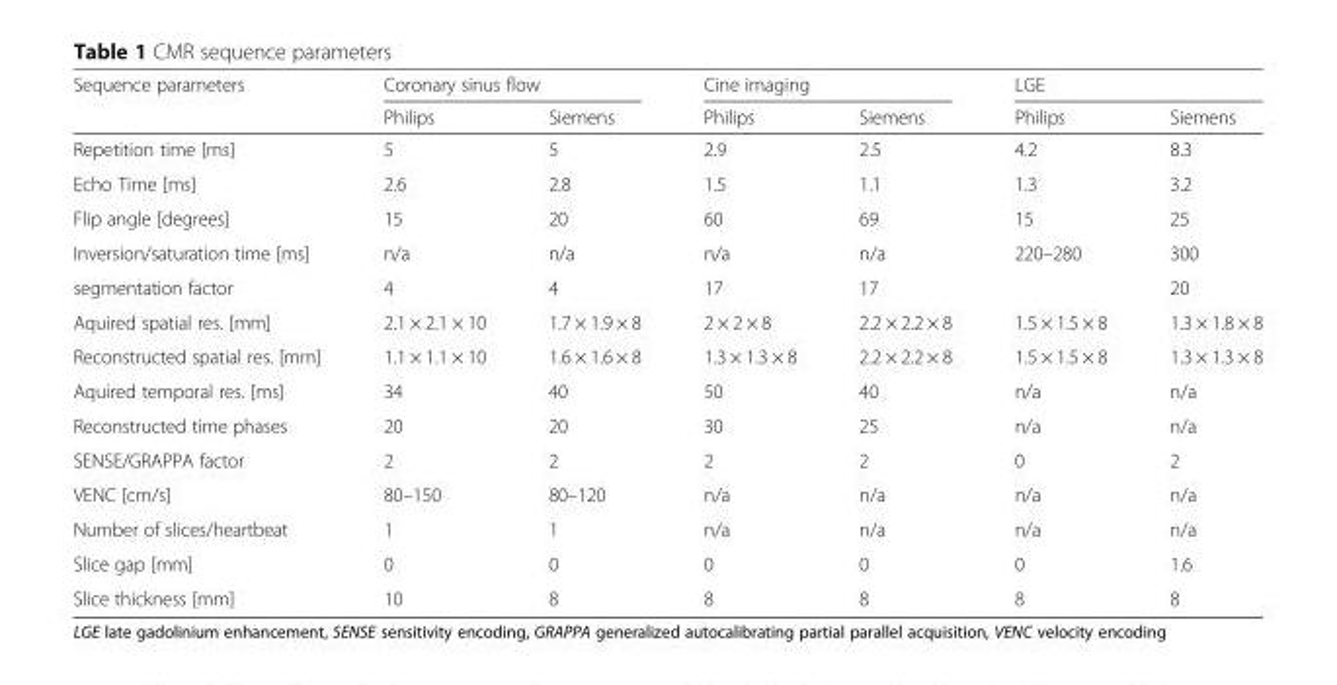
<table><thead><tr><td rowspan="2">Sequence parameters</td><td colspan="2">Coronary sinus flow</td><td colspan="2">Cine imaging</td><td colspan="2">LGE</td></tr><tr><td>Philips</td><td>Siemens</td><td>Philips</td><td>Siemens</td><td>Philips</td><td>Siemens</td></tr></thead><tbody><tr><td>Repetition time [ms]</td><td>5</td><td>5</td><td>2.9</td><td>2.5</td><td>4.2</td><td>8.3</td></tr><tr><td>Echo Time [ms]</td><td>2.6</td><td>2.8</td><td>1.5</td><td>1.1</td><td>1.3</td><td>3.2</td></tr><tr><td>Flip angle [degrees]</td><td>15</td><td>20</td><td>60</td><td>69</td><td>15</td><td>25</td></tr><tr><td>Inversion/saturation time [ms]</td><td>n/a</td><td>n/a</td><td>n/a</td><td>n/a</td><td>220–280</td><td>300</td></tr><tr><td>segmentation factor</td><td>4</td><td>4</td><td>17</td><td>17</td><td></td><td>20</td></tr><tr><td>Aquired spatial res. [mm]</td><td>2.1 × 2.1 × 10</td><td>1.7 × 1.9 × 8</td><td>2 × 2 × 8</td><td>2.2 × 2.2 × 8</td><td>1.5 × 1.5 × 8</td><td>1.3 × 1.8 × 8</td></tr><tr><td>Reconstructed spatial res. [mm]</td><td>1.1 × 1.1 × 10</td><td>1.6 × 1.6 × 8</td><td>1.3 × 1.3 × 8</td><td>2.2 × 2.2 × 8</td><td>1.5 × 1.5 × 8</td><td>1.3 × 1.3 × 8</td></tr><tr><td>Aquired temporal res. [ms]</td><td>34</td><td>40</td><td>50</td><td>40</td><td>n/a</td><td>n/a</td></tr><tr><td>Reconstructed time phases</td><td>20</td><td>20</td><td>30</td><td>25</td><td>n/a</td><td>n/a</td></tr><tr><td>SENSE/GRAPPA factor</td><td>2</td><td>2</td><td>2</td><td>2</td><td>0</td><td>2</td></tr><tr><td>VENC [cm/s]</td><td>80–150</td><td>80–120</td><td>n/a</td><td>n/a</td><td>n/a</td><td>n/a</td></tr><tr><td>Number of slices/heartbeat</td><td>1</td><td>1</td><td>n/a</td><td>n/a</td><td>n/a</td><td>n/a</td></tr><tr><td>Slice gap [mm]</td><td>0</td><td>0</td><td>0</td><td>0</td><td>0</td><td>1.6</td></tr><tr><td>Slice thickness [mm]</td><td>10</td><td>8</td><td>8</td><td>8</td><td>8</td><td>8</td></tr></tbody></table>